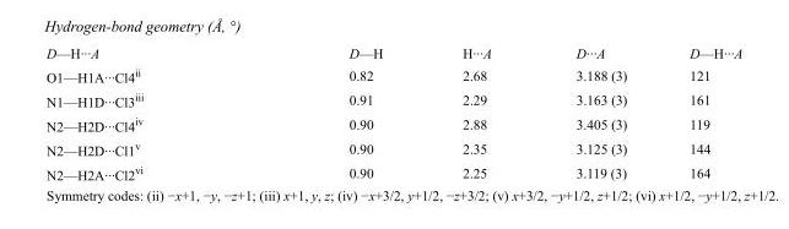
<table><tbody><tr><td>D—H···A</td><td>D—H</td><td>H···A</td><td>D···A</td><td>D—H···A</td></tr><tr><td>O1—H1A···Cl4<sup>ii</sup></td><td>0.82</td><td>2.68</td><td>3.188 (3)</td><td>121</td></tr><tr><td>N1—H1D···Cl3<sup>iii</sup></td><td>0.91</td><td>2.29</td><td>3.163 (3)</td><td>161</td></tr><tr><td>N2—H2D···Cl4<sup>iv</sup></td><td>0.90</td><td>2.88</td><td>3.405 (3)</td><td>119</td></tr><tr><td>N2—H2D···Cl1<sup>v</sup></td><td>0.90</td><td>2.35</td><td>3.125 (3)</td><td>144</td></tr><tr><td>N2—H2A···Cl2<sup>vi</sup></td><td>0.90</td><td>2.25</td><td>3.119 (3)</td><td>164</td></tr></tbody></table>